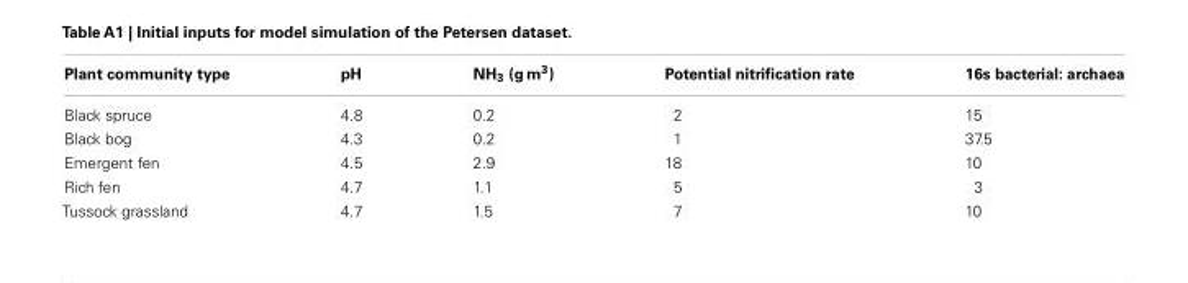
<table><thead><tr><td>Plant community type</td><td>pH</td><td>NH<sub>3</sub> (g m<sup>3</sup>)</td><td>Potential nitrification rate</td><td>16s bacterial: archaea</td></tr></thead><tbody><tr><td>Black spruce</td><td>4.8</td><td>0.2</td><td>2</td><td>15</td></tr><tr><td>Black bog</td><td>4.3</td><td>0.2</td><td>1</td><td>37.5</td></tr><tr><td>Emergent fen</td><td>4.5</td><td>2.9</td><td>18</td><td>10</td></tr><tr><td>Rich fen</td><td>4.7</td><td>1.1</td><td>5</td><td>3</td></tr><tr><td>Tussock grassland</td><td>4.7</td><td>1.5</td><td>7</td><td>10</td></tr></tbody></table>